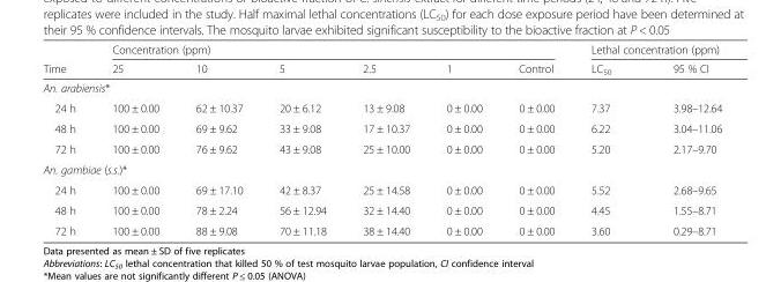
<table><thead><tr><td rowspan="2">Time</td><td colspan="6">Concentration (ppm)</td><td colspan="2">Lethal concentration (ppm)</td></tr><tr><td>25</td><td>10</td><td>5</td><td>2.5</td><td>1</td><td>Control</td><td>LC<sub>50</sub></td><td>95 % CI</td></tr></thead><tbody><tr><td colspan="9">An. arabiensis*</td></tr><tr><td>24 h</td><td>100 ± 0.00</td><td>62 ± 10.37</td><td>20 ± 6.12</td><td>13 ± 9.08</td><td>0 ± 0.00</td><td>0 ± 0.00</td><td>7.37</td><td>3.98–12.64</td></tr><tr><td>48 h</td><td>100 ± 0.00</td><td>69 ± 9.62</td><td>33 ± 9.08</td><td>17 ± 10.37</td><td>0 ± 0.00</td><td>0 ± 0.00</td><td>6.22</td><td>3.04–11.06</td></tr><tr><td>72 h</td><td>100 ± 0.00</td><td>76 ± 9.62</td><td>43 ± 9.08</td><td>25 ± 10.00</td><td>0 ± 0.00</td><td>0 ± 0.00</td><td>5.20</td><td>2.17–9.70</td></tr><tr><td colspan="9">An. gambiae (s.s.)*</td></tr><tr><td>24 h</td><td>100 ± 0.00</td><td>69 ± 17.10</td><td>42 ± 8.37</td><td>25 ± 14.58</td><td>0 ± 0.00</td><td>0 ± 0.00</td><td>5.52</td><td>2.68–9.65</td></tr><tr><td>48 h</td><td>100 ± 0.00</td><td>78 ± 2.24</td><td>56 ± 12.94</td><td>32 ± 14.40</td><td>0 ± 0.00</td><td>0 ± 0.00</td><td>4.45</td><td>1.55–8.71</td></tr><tr><td>72 h</td><td>100 ± 0.00</td><td>88 ± 9.08</td><td>70 ± 11.18</td><td>38 ± 14.40</td><td>0 ± 0.00</td><td>0 ± 0.00</td><td>3.60</td><td>0.29–8.71</td></tr></tbody></table>